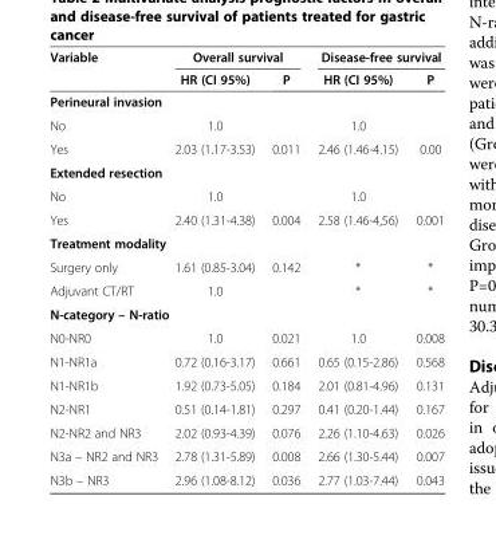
<table><thead><tr><td rowspan="2">Variable</td><td colspan="2">Overall survival</td><td colspan="2">Disease-free survival</td></tr><tr><td>HR (CI 95%)</td><td>P</td><td>HR (CI 95%)</td><td>P</td></tr></thead><tbody><tr><td colspan="5">Perineural invasion</td></tr><tr><td>No</td><td>1.0</td><td></td><td>1.0</td><td></td></tr><tr><td>Yes</td><td>2.03 (1.17-3.53)</td><td>0.011</td><td>2.46 (1.46-4.15)</td><td>0.00</td></tr><tr><td colspan="5">Extended resection</td></tr><tr><td>No</td><td>1.0</td><td></td><td>1.0</td><td></td></tr><tr><td>Yes</td><td>2.40 (1.31-4.38)</td><td>0.004</td><td>2.58 (1.46-4,56)</td><td>0.001</td></tr><tr><td colspan="5">Treatment modality</td></tr><tr><td>Surgery only</td><td>1.61 (0.85-3.04)</td><td>0.142</td><td>*</td><td>*</td></tr><tr><td>Adjuvant CT/RT</td><td>1.0</td><td></td><td>*</td><td>*</td></tr><tr><td colspan="5">N-category – N-ratio</td></tr><tr><td>N0-NR0</td><td>1.0</td><td>0.021</td><td>1.0</td><td>0.008</td></tr><tr><td>N1-NR1a</td><td>0.72 (0.16-3.17)</td><td>0.661</td><td>0.65 (0.15-2.86)</td><td>0.568</td></tr><tr><td>N1-NR1b</td><td>1.92 (0.73-5.05)</td><td>0.184</td><td>2.01 (0.81-4.96)</td><td>0.131</td></tr><tr><td>N2-NR1</td><td>0.51 (0.14-1.81)</td><td>0.297</td><td>0.41 (0.20-1.44)</td><td>0.167</td></tr><tr><td>N2-NR2 and NR3</td><td>2.02 (0.93-4.39)</td><td>0.076</td><td>2.26 (1.10-4.63)</td><td>0.026</td></tr><tr><td>N3a – NR2 and NR3</td><td>2.78 (1.31-5.89)</td><td>0.008</td><td>2.66 (1.30-5.44)</td><td>0.007</td></tr><tr><td>N3b – NR3</td><td>2.96 (1.08-8.12)</td><td>0.036</td><td>2.77 (1.03-7.44)</td><td>0.043</td></tr></tbody></table>